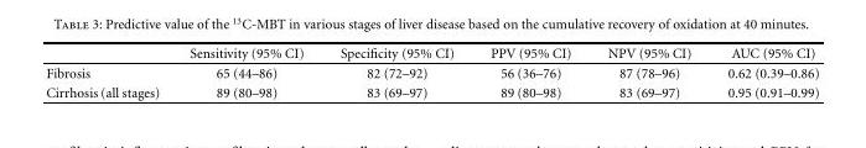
<table><thead><tr><td></td><td>Sensitivity (95% CI)</td><td>Specificity (95% CI)</td><td>PPV (95% CI)</td><td>NPV (95% CI)</td><td>AUC (95% CI)</td></tr></thead><tbody><tr><td>Fibrosis</td><td>65 (44–86)</td><td>82 (72–92)</td><td>56 (36–76)</td><td>87 (78–96)</td><td>0.62 (0.39–0.86)</td></tr><tr><td>Cirrhosis (all stages)</td><td>89 (80–98)</td><td>83 (69–97)</td><td>89 (80–98)</td><td>83 (69–97)</td><td>0.95 (0.91–0.99)</td></tr></tbody></table>